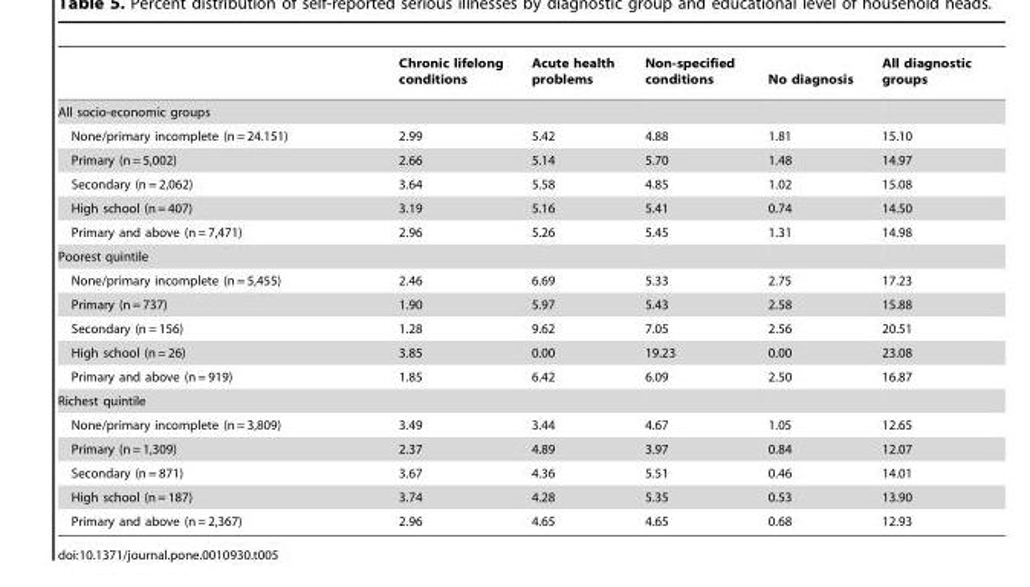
<table><thead><tr><td></td><td>Chronic lifelong conditions</td><td>Acute health problems</td><td>Non-specified conditions</td><td>No diagnosis</td><td>All diagnostic groups</td></tr></thead><tbody><tr><td colspan="6">All socio-economic groups</td></tr><tr><td>None/primary incomplete (n = 24.151)</td><td>2.99</td><td>5.42</td><td>4.88</td><td>1.81</td><td>15.10</td></tr><tr><td>Primary (n = 5,002)</td><td>2.66</td><td>5.14</td><td>5.70</td><td>1.48</td><td>14.97</td></tr><tr><td>Secondary (n = 2,062)</td><td>3.64</td><td>5.58</td><td>4.85</td><td>1.02</td><td>15.08</td></tr><tr><td>High school (n = 407)</td><td>3.19</td><td>5.16</td><td>5.41</td><td>0.74</td><td>14.50</td></tr><tr><td>Primary and above (n = 7,471)</td><td>2.96</td><td>5.26</td><td>5.45</td><td>1.31</td><td>14.98</td></tr><tr><td colspan="6">Poorest quintile</td></tr><tr><td>None/primary incomplete (n = 5,455)</td><td>2.46</td><td>6.69</td><td>5.33</td><td>2.75</td><td>17.23</td></tr><tr><td>Primary (n = 737)</td><td>1.90</td><td>5.97</td><td>5.43</td><td>2.58</td><td>15.88</td></tr><tr><td>Secondary (n = 156)</td><td>1.28</td><td>9.62</td><td>7.05</td><td>2.56</td><td>20.51</td></tr><tr><td>High school (n = 26)</td><td>3.85</td><td>0.00</td><td>19.23</td><td>0.00</td><td>23.08</td></tr><tr><td>Primary and above (n = 919)</td><td>1.85</td><td>6.42</td><td>6.09</td><td>2.50</td><td>16.87</td></tr><tr><td colspan="6">Richest quintile</td></tr><tr><td>None/primary incomplete (n = 3,809)</td><td>3.49</td><td>3.44</td><td>4.67</td><td>1.05</td><td>12.65</td></tr><tr><td>Primary (n = 1,309)</td><td>2.37</td><td>4.89</td><td>3.97</td><td>0.84</td><td>12.07</td></tr><tr><td>Secondary (n = 871)</td><td>3.67</td><td>4.36</td><td>5.51</td><td>0.46</td><td>14.01</td></tr><tr><td>High school (n = 187)</td><td>3.74</td><td>4.28</td><td>5.35</td><td>0.53</td><td>13.90</td></tr><tr><td>Primary and above (n = 2,367)</td><td>2.96</td><td>4.65</td><td>4.65</td><td>0.68</td><td>12.93</td></tr></tbody></table>